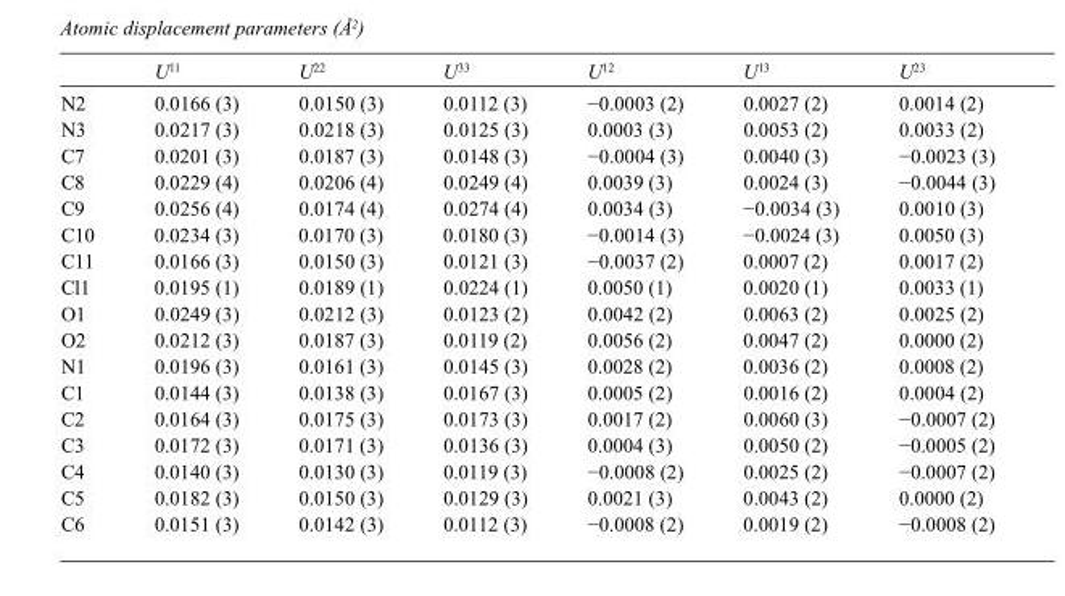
<table><thead><tr><td></td><td>U<sup>11</sup></td><td>U<sup>22</sup></td><td>U<sup>33</sup></td><td>U<sup>12</sup></td><td>U<sup>13</sup></td><td>U<sup>23</sup></td></tr></thead><tbody><tr><td>N2</td><td>0.0166 (3)</td><td>0.0150 (3)</td><td>0.0112 (3)</td><td>−0.0003 (2)</td><td>0.0027 (2)</td><td>0.0014 (2)</td></tr><tr><td>N3</td><td>0.0217 (3)</td><td>0.0218 (3)</td><td>0.0125 (3)</td><td>0.0003 (3)</td><td>0.0053 (2)</td><td>0.0033 (2)</td></tr><tr><td>C7</td><td>0.0201 (3)</td><td>0.0187 (3)</td><td>0.0148 (3)</td><td>−0.0004 (3)</td><td>0.0040 (3)</td><td>−0.0023 (3)</td></tr><tr><td>C8</td><td>0.0229 (4)</td><td>0.0206 (4)</td><td>0.0249 (4)</td><td>0.0039 (3)</td><td>0.0024 (3)</td><td>−0.0044 (3)</td></tr><tr><td>C9</td><td>0.0256 (4)</td><td>0.0174 (4)</td><td>0.0274 (4)</td><td>0.0034 (3)</td><td>−0.0034 (3)</td><td>0.0010 (3)</td></tr><tr><td>C10</td><td>0.0234 (3)</td><td>0.0170 (3)</td><td>0.0180 (3)</td><td>−0.0014 (3)</td><td>−0.0024 (3)</td><td>0.0050 (3)</td></tr><tr><td>C11</td><td>0.0166 (3)</td><td>0.0150 (3)</td><td>0.0121 (3)</td><td>−0.0037 (2)</td><td>0.0007 (2)</td><td>0.0017 (2)</td></tr><tr><td>Cl1</td><td>0.0195 (1)</td><td>0.0189 (1)</td><td>0.0224 (1)</td><td>0.0050 (1)</td><td>0.0020 (1)</td><td>0.0033 (1)</td></tr><tr><td>O1</td><td>0.0249 (3)</td><td>0.0212 (3)</td><td>0.0123 (2)</td><td>0.0042 (2)</td><td>0.0063 (2)</td><td>0.0025 (2)</td></tr><tr><td>O2</td><td>0.0212 (3)</td><td>0.0187 (3)</td><td>0.0119 (2)</td><td>0.0056 (2)</td><td>0.0047 (2)</td><td>0.0000 (2)</td></tr><tr><td>N1</td><td>0.0196 (3)</td><td>0.0161 (3)</td><td>0.0145 (3)</td><td>0.0028 (2)</td><td>0.0036 (2)</td><td>0.0008 (2)</td></tr><tr><td>C1</td><td>0.0144 (3)</td><td>0.0138 (3)</td><td>0.0167 (3)</td><td>0.0005 (2)</td><td>0.0016 (2)</td><td>0.0004 (2)</td></tr><tr><td>C2</td><td>0.0164 (3)</td><td>0.0175 (3)</td><td>0.0173 (3)</td><td>0.0017 (2)</td><td>0.0060 (3)</td><td>−0.0007 (2)</td></tr><tr><td>C3</td><td>0.0172 (3)</td><td>0.0171 (3)</td><td>0.0136 (3)</td><td>0.0004 (3)</td><td>0.0050 (2)</td><td>−0.0005 (2)</td></tr><tr><td>C4</td><td>0.0140 (3)</td><td>0.0130 (3)</td><td>0.0119 (3)</td><td>−0.0008 (2)</td><td>0.0025 (2)</td><td>−0.0007 (2)</td></tr><tr><td>C5</td><td>0.0182 (3)</td><td>0.0150 (3)</td><td>0.0129 (3)</td><td>0.0021 (3)</td><td>0.0043 (2)</td><td>0.0000 (2)</td></tr><tr><td>C6</td><td>0.0151 (3)</td><td>0.0142 (3)</td><td>0.0112 (3)</td><td>−0.0008 (2)</td><td>0.0019 (2)</td><td>−0.0008 (2)</td></tr></tbody></table>